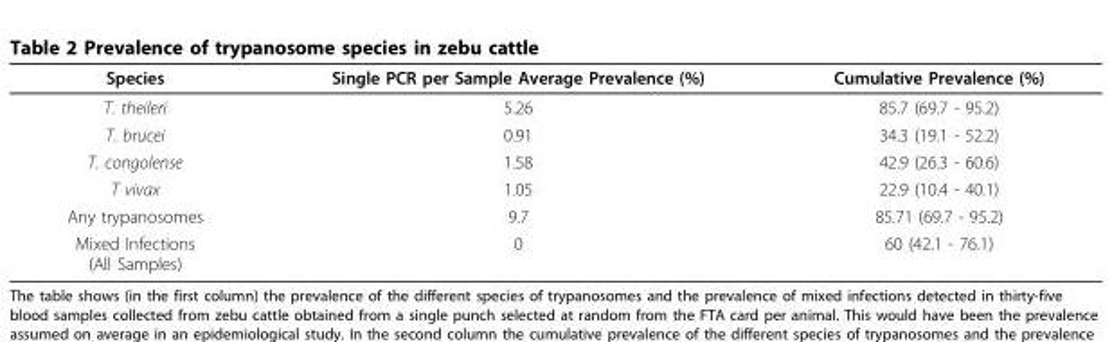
<table><thead><tr><td>Species</td><td>Single PCR per Sample Average Prevalence (%)</td><td>Cumulative Prevalence (%)</td></tr></thead><tbody><tr><td>T. theileri</td><td>5.26</td><td>85.7 (69.7 - 95.2)</td></tr><tr><td>T. brucei</td><td>0.91</td><td>34.3 (19.1 - 52.2)</td></tr><tr><td>T. congolense</td><td>1.58</td><td>42.9 (26.3 - 60.6)</td></tr><tr><td>T vivax</td><td>1.05</td><td>22.9 (10.4 - 40.1)</td></tr><tr><td>Any trypanosomes</td><td>9.7</td><td>85.71 (69.7 - 95.2)</td></tr><tr><td>Mixed Infections (All Samples)</td><td>0</td><td>60 (42.1 - 76.1)</td></tr></tbody></table>